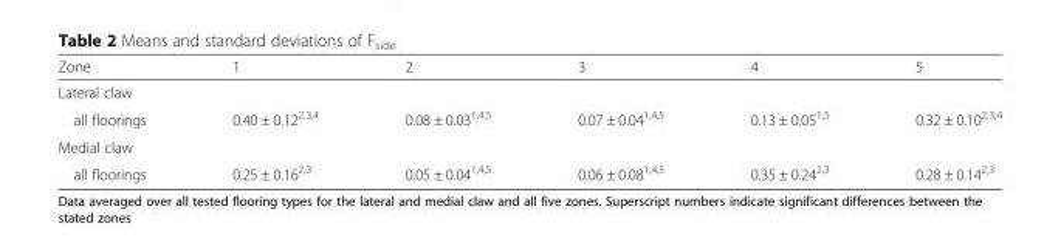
<table><thead><tr><td>Zone</td><td>1</td><td>2</td><td>3</td><td>4</td><td>5</td></tr></thead><tbody><tr><td colspan="6">Lateral claw</td></tr><tr><td>all floorings</td><td>0.40 ± 0.12<sup>2,3,4</sup></td><td>0.08 ± 0.03<sup>1,4,5</sup></td><td>0.07 ± 0.04<sup>1,4,5</sup></td><td>0.13 ± 0.05<sup>1,5</sup></td><td>0.32 ± 0.10<sup>2,3,4</sup></td></tr><tr><td colspan="6">Medial claw</td></tr><tr><td>all floorings</td><td>0.25 ± 0.16<sup>2,3</sup></td><td>0.05 ± 0.04<sup>1,4,5</sup></td><td>0.06 ± 0.08<sup>1,4,5</sup></td><td>0.35 ± 0.24<sup>2,3</sup></td><td>0.28 ± 0.14<sup>2,3</sup></td></tr></tbody></table>